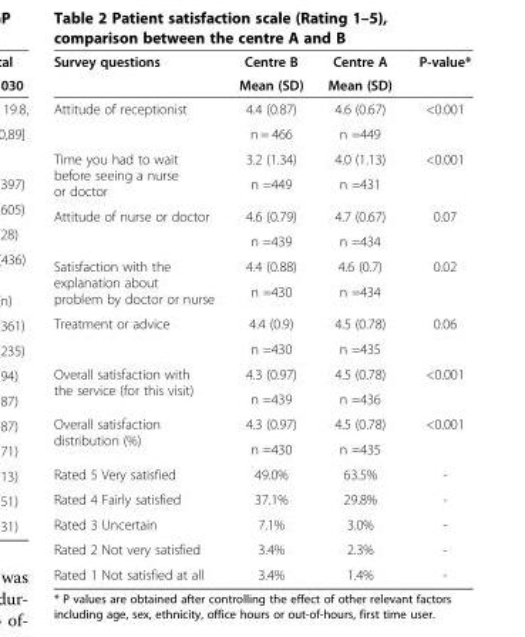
<table><thead><tr><td rowspan="2">Survey questions</td><td rowspan="2">Centre B Mean (SD)</td><td rowspan="2">Centre A Mean (SD)</td><td rowspan="2">P-value*</td></tr><tr></tr></thead><tbody><tr><td rowspan="2">Attitude of receptionist</td><td>4.4 (0.87)</td><td>4.6 (0.67)</td><td rowspan="2">&lt;0.001</td></tr><tr><td>n = 466</td><td>n =449</td></tr><tr><td rowspan="2">Time you had to wait before seeing a nurse or doctor</td><td>3.2 (1.34)</td><td>4.0 (1.13)</td><td rowspan="2">&lt;0.001</td></tr><tr><td>n =449</td><td>n =431</td></tr><tr><td rowspan="2">Attitude of nurse or doctor</td><td>4.6 (0.79)</td><td>4.7 (0.67)</td><td rowspan="2">0.07</td></tr><tr><td>n =439</td><td>n =434</td></tr><tr><td rowspan="2">Satisfaction with the explanation about problem by doctor or nurse</td><td>4.4 (0.88)</td><td>4.6 (0.7)</td><td rowspan="2">0.02</td></tr><tr><td>n =430</td><td>n =434</td></tr><tr><td rowspan="2">Treatment or advice</td><td>4.4 (0.9)</td><td>4.5 (0.78)</td><td rowspan="2">0.06</td></tr><tr><td>n =430</td><td>n =435</td></tr><tr><td rowspan="2">Overall satisfaction with the service (for this visit)</td><td>4.3 (0.97)</td><td>4.5 (0.78)</td><td rowspan="2">&lt;0.001</td></tr><tr><td>n =439</td><td>n =436</td></tr><tr><td rowspan="2">Overall satisfaction distribution (%)</td><td>4.3 (0.97)</td><td>4.5 (0.78)</td><td rowspan="2">&lt;0.001</td></tr><tr><td>n =430</td><td>n =435</td></tr><tr><td>Rated 5 Very satisfied</td><td>49.0%</td><td>63.5%</td><td>-</td></tr><tr><td>Rated 4 Fairly satisfied</td><td>37.1%</td><td>29.8%</td><td>-</td></tr><tr><td>Rated 3 Uncertain</td><td>7.1%</td><td>3.0%</td><td>-</td></tr><tr><td>Rated 2 Not very satisfied</td><td>3.4%</td><td>2.3%</td><td>-</td></tr><tr><td>Rated 1 Not satisfied at all</td><td>3.4%</td><td>1.4%</td><td>-</td></tr></tbody></table>